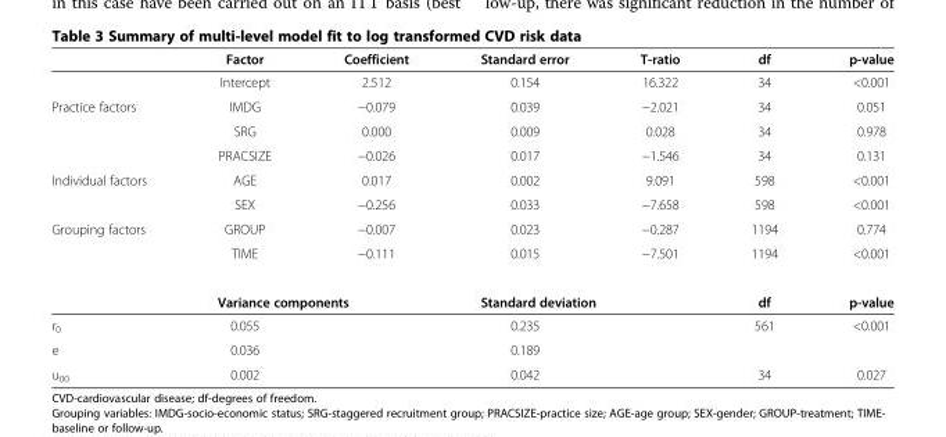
<table><thead><tr><td></td><td>Factor</td><td>Coefficient</td><td>Standard error</td><td>T-ratio</td><td>df</td><td>p-value</td></tr></thead><tbody><tr><td></td><td>Intercept</td><td>2.512</td><td>0.154</td><td>16.322</td><td>34</td><td>&lt;0.001</td></tr><tr><td rowspan="3">Practice factors</td><td>IMDG</td><td>−0.079</td><td>0.039</td><td>−2.021</td><td>34</td><td>0.051</td></tr><tr><td>SRG</td><td>0.000</td><td>0.009</td><td>0.028</td><td>34</td><td>0.978</td></tr><tr><td>PRACSIZE</td><td>−0.026</td><td>0.017</td><td>−1.546</td><td>34</td><td>0.131</td></tr><tr><td rowspan="2">Individual factors</td><td>AGE</td><td>0.017</td><td>0.002</td><td>9.091</td><td>598</td><td>&lt;0.001</td></tr><tr><td>SEX</td><td>−0.256</td><td>0.033</td><td>−7.658</td><td>598</td><td>&lt;0.001</td></tr><tr><td rowspan="3">Grouping factors</td><td>GROUP</td><td>−0.007</td><td>0.023</td><td>−0.287</td><td>1194</td><td>0.774</td></tr><tr><td>TIME</td><td>−0.111</td><td>0.015</td><td>−7.501</td><td>1194</td><td>&lt;0.001</td></tr><tr><td colspan="2">Variance components</td><td colspan="2">Standard deviation</td><td>df</td><td>p-value</td></tr><tr><td>r<sub>0</sub></td><td>0.055</td><td></td><td>0.235</td><td></td><td>561</td><td>&lt;0.001</td></tr><tr><td>e</td><td>0.036</td><td></td><td>0.189</td><td></td><td></td><td></td></tr><tr><td>u<sub>00</sub></td><td>0.002</td><td></td><td>0.042</td><td></td><td>34</td><td>0.027</td></tr></tbody></table>